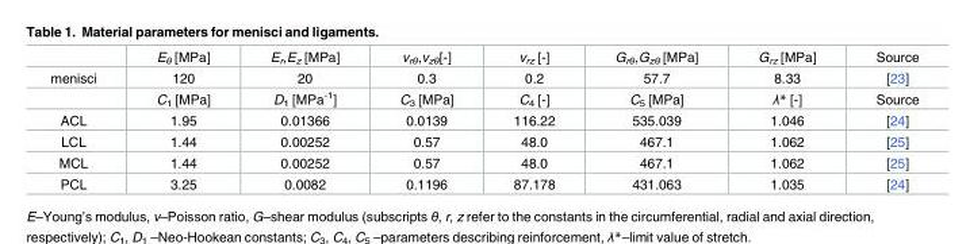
<table><thead><tr><td></td><td>E<sub>θ</sub> [MPa]</td><td>E<sub>r</sub>,E<sub>z</sub> [MPa]</td><td>v<sub>rθ</sub>,v<sub>zθ</sub>[-]</td><td>v<sub>rz</sub> [-]</td><td>G<sub>rθ</sub>,G<sub>zθ</sub> [MPa]</td><td>G<sub>rz</sub> [MPa]</td><td>Source</td></tr></thead><tbody><tr><td rowspan="2">menisci</td><td>120</td><td>20</td><td>0.3</td><td>0.2</td><td>57.7</td><td>8.33</td><td>[23]</td></tr><tr><td>C<sub>1</sub> [MPa]</td><td>D<sub>1</sub> [MPa<sup>-1</sup>]</td><td>C<sub>3</sub> [MPa]</td><td>C<sub>4</sub> [-]</td><td>C<sub>5</sub> [MPa]</td><td>λ* [-]</td><td>Source</td></tr><tr><td>ACL</td><td>1.95</td><td>0.01366</td><td>0.0139</td><td>116.22</td><td>535.039</td><td>1.046</td><td>[24]</td></tr><tr><td>LCL</td><td>1.44</td><td>0.00252</td><td>0.57</td><td>48.0</td><td>467.1</td><td>1.062</td><td>[25]</td></tr><tr><td>MCL</td><td>1.44</td><td>0.00252</td><td>0.57</td><td>48.0</td><td>467.1</td><td>1.062</td><td>[25]</td></tr><tr><td>PCL</td><td>3.25</td><td>0.0082</td><td>0.1196</td><td>87.178</td><td>431.063</td><td>1.035</td><td>[24]</td></tr></tbody></table>